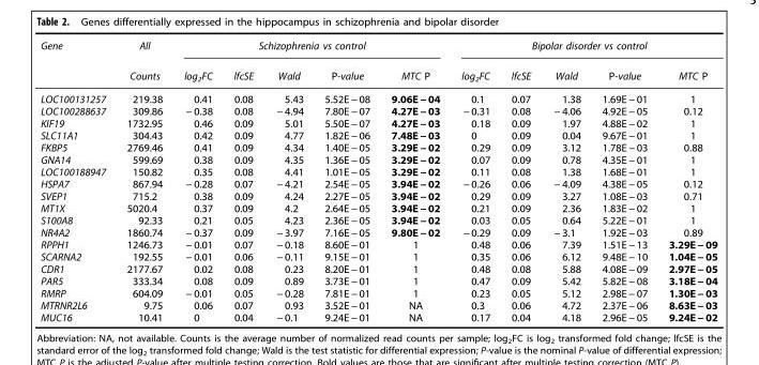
<table><thead><tr><td rowspan="2">Gene</td><td rowspan="2">All Counts</td><td colspan="5">Schizophrenia vs control</td><td colspan="5">Bipolar disorder vs control</td></tr><tr><td>log<sub>2</sub>FC</td><td>lfcSE</td><td>Wald</td><td>P-value</td><td>MTC P</td><td>log<sub>2</sub>FC</td><td>lfcSE</td><td>Wald</td><td>P-value</td><td>MTC P</td></tr></thead><tbody><tr><td>LOC100131257</td><td>219.38</td><td>0.41</td><td>0.08</td><td>5.43</td><td>5.52E − 08</td><td>9.06E − 04</td><td>0.1</td><td>0.07</td><td>1.38</td><td>1.69E − 01</td><td>1</td></tr><tr><td>LOC100288637</td><td>309.86</td><td>− 0.38</td><td>0.08</td><td>− 4.94</td><td>7.80E − 07</td><td>4.27E − 03</td><td>− 0.31</td><td>0.08</td><td>− 4.06</td><td>4.92E − 05</td><td>0.12</td></tr><tr><td>KIF19</td><td>1732.95</td><td>0.46</td><td>0.09</td><td>5.01</td><td>5.50E − 07</td><td>4.27E − 03</td><td>0.18</td><td>0.09</td><td>1.97</td><td>4.88E − 02</td><td>1</td></tr><tr><td>SLC11A1</td><td>304.43</td><td>0.42</td><td>0.09</td><td>4.77</td><td>1.82E − 06</td><td>7.48E − 03</td><td>0</td><td>0.09</td><td>0.04</td><td>9.67E − 01</td><td>1</td></tr><tr><td>FKBP5</td><td>2769.46</td><td>0.41</td><td>0.09</td><td>4.34</td><td>1.40E − 05</td><td>3.29E − 02</td><td>0.29</td><td>0.09</td><td>3.12</td><td>1.78E − 03</td><td>0.88</td></tr><tr><td>GNA14</td><td>599.69</td><td>0.38</td><td>0.09</td><td>4.35</td><td>1.36E − 05</td><td>3.29E − 02</td><td>0.07</td><td>0.09</td><td>0.78</td><td>4.35E − 01</td><td>1</td></tr><tr><td>LOC100188947</td><td>150.82</td><td>0.35</td><td>0.08</td><td>4.41</td><td>1.01E − 05</td><td>3.29E − 02</td><td>0.11</td><td>0.08</td><td>1.38</td><td>1.68E − 01</td><td>1</td></tr><tr><td>HSPA7</td><td>867.94</td><td>− 0.28</td><td>0.07</td><td>− 4.21</td><td>2.54E − 05</td><td>3.94E − 02</td><td>− 0.26</td><td>0.06</td><td>− 4.09</td><td>4.38E − 05</td><td>0.12</td></tr><tr><td>SVEP1</td><td>715.2</td><td>0.38</td><td>0.09</td><td>4.24</td><td>2.27E − 05</td><td>3.94E − 02</td><td>0.29</td><td>0.09</td><td>3.27</td><td>1.08E − 03</td><td>0.71</td></tr><tr><td>MT1X</td><td>5020.4</td><td>0.37</td><td>0.09</td><td>4.2</td><td>2.64E − 05</td><td>3.94E − 02</td><td>0.21</td><td>0.09</td><td>2.36</td><td>1.83E − 02</td><td>1</td></tr><tr><td>S100A8</td><td>92.33</td><td>0.21</td><td>0.05</td><td>4.23</td><td>2.36E − 05</td><td>3.94E − 02</td><td>0.03</td><td>0.05</td><td>0.64</td><td>5.22E − 01</td><td>1</td></tr><tr><td>NR4A2</td><td>1860.74</td><td>− 0.37</td><td>0.09</td><td>− 3.97</td><td>7.16E − 05</td><td>9.80E − 02</td><td>− 0.29</td><td>0.09</td><td>− 3.1</td><td>1.92E − 03</td><td>0.89</td></tr><tr><td>RPPH1</td><td>1246.73</td><td>− 0.01</td><td>0.07</td><td>− 0.18</td><td>8.60E − 01</td><td>1</td><td>0.48</td><td>0.06</td><td>7.39</td><td>1.51E − 13</td><td>3.29E − 09</td></tr><tr><td>SCARNA2</td><td>192.55</td><td>− 0.01</td><td>0.06</td><td>− 0.11</td><td>9.15E − 01</td><td>1</td><td>0.35</td><td>0.06</td><td>6.12</td><td>9.48E − 10</td><td>1.04E − 05</td></tr><tr><td>CDR1</td><td>2177.67</td><td>0.02</td><td>0.08</td><td>0.23</td><td>8.20E − 01</td><td>1</td><td>0.48</td><td>0.08</td><td>5.88</td><td>4.08E − 09</td><td>2.97E − 05</td></tr><tr><td>PAR5</td><td>333.34</td><td>0.08</td><td>0.09</td><td>0.89</td><td>3.73E − 01</td><td>1</td><td>0.47</td><td>0.09</td><td>5.42</td><td>5.82E − 08</td><td>3.18E − 04</td></tr><tr><td>RMRP</td><td>604.09</td><td>− 0.01</td><td>0.05</td><td>− 0.28</td><td>7.81E − 01</td><td>1</td><td>0.23</td><td>0.05</td><td>5.12</td><td>2.98E − 07</td><td>1.30E − 03</td></tr><tr><td>MTRNR2L6</td><td>9.75</td><td>0.06</td><td>0.07</td><td>0.93</td><td>3.52E − 01</td><td>NA</td><td>0.3</td><td>0.06</td><td>4.72</td><td>2.37E − 06</td><td>8.63E − 03</td></tr><tr><td>MUC16</td><td>10.41</td><td>0</td><td>0.04</td><td>− 0.1</td><td>9.24E − 01</td><td>NA</td><td>0.17</td><td>0.04</td><td>4.18</td><td>2.96E − 05</td><td>9.24E − 02</td></tr></tbody></table>